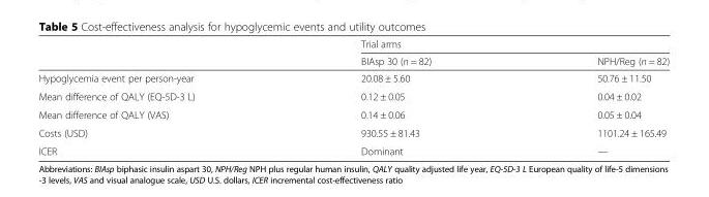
<table><thead><tr><td rowspan="2"></td><td colspan="2">Trial arms</td></tr><tr><td>BIAsp 30 (n = 82)</td><td>NPH/Reg (n = 82)</td></tr></thead><tbody><tr><td>Hypoglycemia event per person-year</td><td>20.08 ± 5.60</td><td>50.76 ± 11.50</td></tr><tr><td>Mean difference of QALY (EQ-5D-3 L)</td><td>0.12 ± 0.05</td><td>0.04 ± 0.02</td></tr><tr><td>Mean difference of QALY (VAS)</td><td>0.14 ± 0.06</td><td>0.05 ± 0.04</td></tr><tr><td>Costs (USD)</td><td>930.55 ± 81.43</td><td>1101.24 ± 165.49</td></tr><tr><td>ICER</td><td>Dominant</td><td>—</td></tr></tbody></table>